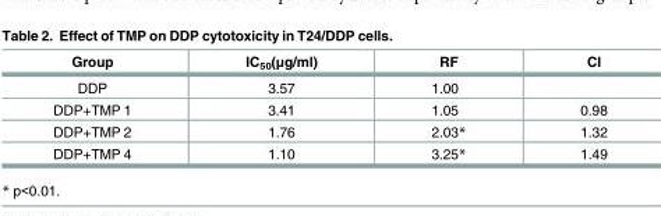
<table><thead><tr><td>Group</td><td>IC<sub>50</sub>(μg/ml)</td><td>RF</td><td>CI</td></tr></thead><tbody><tr><td>DDP</td><td>3.57</td><td>1.00</td><td></td></tr><tr><td>DDP+TMP 1</td><td>3.41</td><td>1.05</td><td>0.98</td></tr><tr><td>DDP+TMP 2</td><td>1.76</td><td>2.03*</td><td>1.32</td></tr><tr><td>DDP+TMP 4</td><td>1.10</td><td>3.25*</td><td>1.49</td></tr></tbody></table>